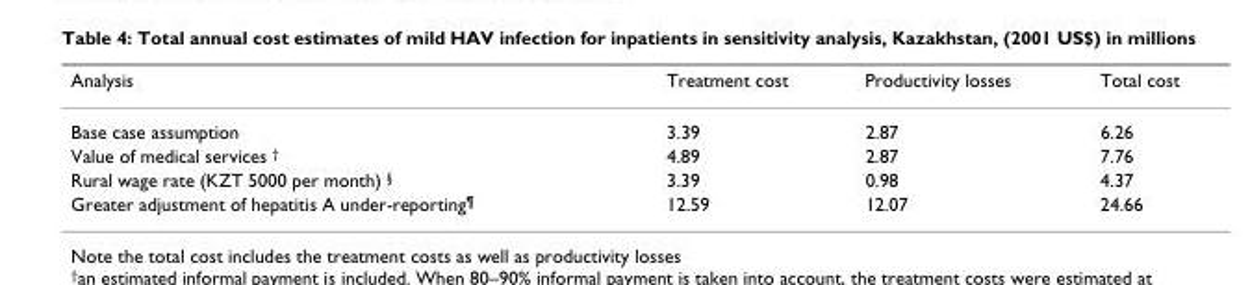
<table><thead><tr><td>Analysis</td><td>Treatment cost</td><td>Productivity losses</td><td>Total cost</td></tr></thead><tbody><tr><td>Base case assumption</td><td>3.39</td><td>2.87</td><td>6.26</td></tr><tr><td>Value of medical services <sup>†</sup></td><td>4.89</td><td>2.87</td><td>7.76</td></tr><tr><td>Rural wage rate (KZT 5000 per month) <sup>§</sup></td><td>3.39</td><td>0.98</td><td>4.37</td></tr><tr><td>Greater adjustment of hepatitis A under-reporting<sup>¶</sup></td><td>12.59</td><td>12.07</td><td>24.66</td></tr></tbody></table>